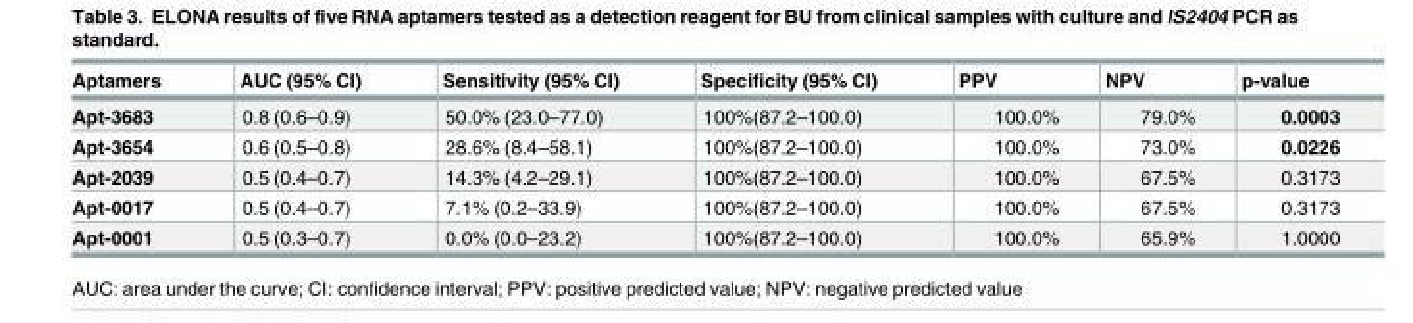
<table><thead><tr><td>Aptamers</td><td>AUC (95% CI)</td><td>Sensitivity (95% CI)</td><td>Specificity (95% CI)</td><td>PPV</td><td>NPV</td><td>p-value</td></tr></thead><tbody><tr><td>Apt-3683</td><td>0.8 (0.6–0.9)</td><td>50.0% (23.0–77.0)</td><td>100%(87.2–100.0)</td><td>100.0%</td><td>79.0%</td><td>0.0003</td></tr><tr><td>Apt-3654</td><td>0.6 (0.5–0.8)</td><td>28.6% (8.4–58.1)</td><td>100%(87.2–100.0)</td><td>100.0%</td><td>73.0%</td><td>0.0226</td></tr><tr><td>Apt-2039</td><td>0.5 (0.4–0.7)</td><td>14.3% (4.2–29.1)</td><td>100%(87.2–100.0)</td><td>100.0%</td><td>67.5%</td><td>0.3173</td></tr><tr><td>Apt-0017</td><td>0.5 (0.4–0.7)</td><td>7.1% (0.2–33.9)</td><td>100%(87.2–100.0)</td><td>100.0%</td><td>67.5%</td><td>0.3173</td></tr><tr><td>Apt-0001</td><td>0.5 (0.3–0.7)</td><td>0.0% (0.0–23.2)</td><td>100%(87.2–100.0)</td><td>100.0%</td><td>65.9%</td><td>1.0000</td></tr></tbody></table>